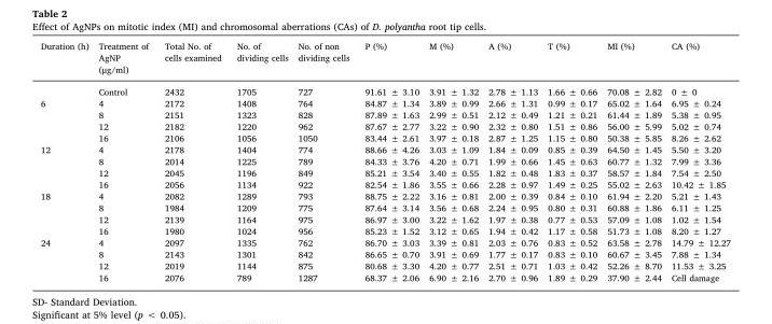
<table><thead><tr><td>Duration (h)</td><td>Treatment of AgNP (μg/ml)</td><td>Total No. of cells examined</td><td>No. of dividing cells</td><td>No. of non dividing cells</td><td>P (%)</td><td>M (%)</td><td>A (%)</td><td>T (%)</td><td>MI (%)</td><td>CA (%)</td></tr></thead><tbody><tr><td></td><td>Control</td><td>2432</td><td>1705</td><td>727</td><td>91.61 ± 3.10</td><td>3.91 ± 1.32</td><td>2.78 ± 1.13</td><td>1.66 ± 0.66</td><td>70.08 ± 2.82</td><td>0 ± 0</td></tr><tr><td rowspan="4">6</td><td>4</td><td>2172</td><td>1408</td><td>764</td><td>84.87 ± 1.34</td><td>3.89 ± 0.99</td><td>2.66 ± 1.31</td><td>0.99 ± 0.17</td><td>65.02 ± 1.64</td><td>6.95 ± 0.24</td></tr><tr><td>8</td><td>2151</td><td>1323</td><td>828</td><td>87.89 ± 1.63</td><td>2.99 ± 0.51</td><td>2.12 ± 0.49</td><td>1.21 ± 0.21</td><td>61.44 ± 1.89</td><td>5.38 ± 0.95</td></tr><tr><td>12</td><td>2182</td><td>1220</td><td>962</td><td>87.67 ± 2.77</td><td>3.22 ± 0.90</td><td>2.32 ± 0.80</td><td>1.51 ± 0.86</td><td>56.00 ± 5.99</td><td>5.02 ± 0.74</td></tr><tr><td>16</td><td>2106</td><td>1056</td><td>1050</td><td>83.44 ± 2.61</td><td>3.97 ± 0.18</td><td>2.87 ± 1.25</td><td>1.15 ± 0.80</td><td>50.38 ± 5.85</td><td>8.26 ± 2.62</td></tr><tr><td rowspan="4">12</td><td>4</td><td>2178</td><td>1404</td><td>774</td><td>88.66 ± 4.26</td><td>3.03 ± 1.09</td><td>1.84 ± 0.09</td><td>0.85 ± 0.39</td><td>64.50 ± 1.45</td><td>5.50 ± 3.20</td></tr><tr><td>8</td><td>2014</td><td>1225</td><td>789</td><td>84.33 ± 3.76</td><td>4.20 ± 0.71</td><td>1.99 ± 0.66</td><td>1.45 ± 0.63</td><td>60.77 ± 1.32</td><td>7.99 ± 3.36</td></tr><tr><td>12</td><td>2045</td><td>1196</td><td>849</td><td>85.21 ± 3.54</td><td>3.40 ± 0.55</td><td>1.82 ± 0.48</td><td>1.83 ± 0.37</td><td>58.57 ± 1.84</td><td>7.54 ± 2.50</td></tr><tr><td>16</td><td>2056</td><td>1134</td><td>922</td><td>82.54 ± 1.86</td><td>3.55 ± 0.66</td><td>2.28 ± 0.97</td><td>1.49 ± 0.25</td><td>55.02 ± 2.63</td><td>10.42 ± 1.85</td></tr><tr><td rowspan="4">18</td><td>4</td><td>2082</td><td>1289</td><td>793</td><td>88.75 ± 2.22</td><td>3.16 ± 0.81</td><td>2.00 ± 0.39</td><td>0.84 ± 0.10</td><td>61.94 ± 2.20</td><td>5.21 ± 1.43</td></tr><tr><td>8</td><td>1984</td><td>1209</td><td>775</td><td>87.64 ± 3.14</td><td>3.56 ± 0.68</td><td>2.24 ± 0.95</td><td>0.80 ± 0.31</td><td>60.88 ± 1.86</td><td>6.11 ± 1.25</td></tr><tr><td>12</td><td>2139</td><td>1164</td><td>975</td><td>86.97 ± 3.00</td><td>3.22 ± 1.62</td><td>1.97 ± 0.38</td><td>0.77 ± 0.53</td><td>57.09 ± 1.08</td><td>1.02 ± 1.54</td></tr><tr><td>16</td><td>1980</td><td>1024</td><td>956</td><td>85.23 ± 1.52</td><td>3.12 ± 0.65</td><td>1.94 ± 0.42</td><td>1.17 ± 0.58</td><td>51.73 ± 1.08</td><td>8.20 ± 1.27</td></tr><tr><td rowspan="4">24</td><td>4</td><td>2097</td><td>1335</td><td>762</td><td>86.70 ± 3.03</td><td>3.39 ± 0.81</td><td>2.03 ± 0.76</td><td>0.83 ± 0.52</td><td>63.58 ± 2.78</td><td>14.79 ± 12.27</td></tr><tr><td>8</td><td>2143</td><td>1301</td><td>842</td><td>86.65 ± 0.70</td><td>3.91 ± 0.69</td><td>1.77 ± 0.17</td><td>0.83 ± 0.10</td><td>60.67 ± 3.45</td><td>7.88 ± 1.34</td></tr><tr><td>12</td><td>2019</td><td>1144</td><td>875</td><td>80.68 ± 3.30</td><td>4.20 ± 0.77</td><td>2.51 ± 0.71</td><td>1.03 ± 0.42</td><td>52.26 ± 8.70</td><td>11.53 ± 3.25</td></tr><tr><td>16</td><td>2076</td><td>789</td><td>1287</td><td>68.37 ± 2.06</td><td>6.90 ± 2.16</td><td>2.70 ± 0.96</td><td>1.89 ± 0.29</td><td>37.90 ± 2.44</td><td>Cell damage</td></tr></tbody></table>